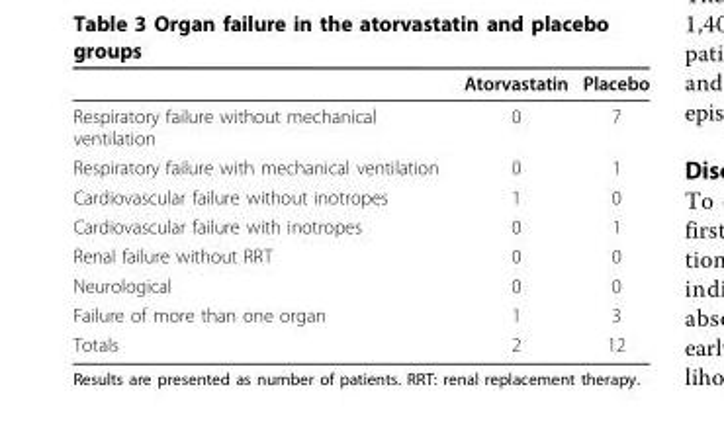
<table><thead><tr><td></td><td>Atorvastatin</td><td>Placebo</td></tr></thead><tbody><tr><td>Respiratory failure without mechanical ventilation</td><td>0</td><td>7</td></tr><tr><td>Respiratory failure with mechanical ventilation</td><td>0</td><td>1</td></tr><tr><td>Cardiovascular failure without inotropes</td><td>1</td><td>0</td></tr><tr><td>Cardiovascular failure with inotropes</td><td>0</td><td>1</td></tr><tr><td>Renal failure without RRT</td><td>0</td><td>0</td></tr><tr><td>Neurological</td><td>0</td><td>0</td></tr><tr><td>Failure of more than one organ</td><td>1</td><td>3</td></tr><tr><td>Totals</td><td>2</td><td>12</td></tr></tbody></table>